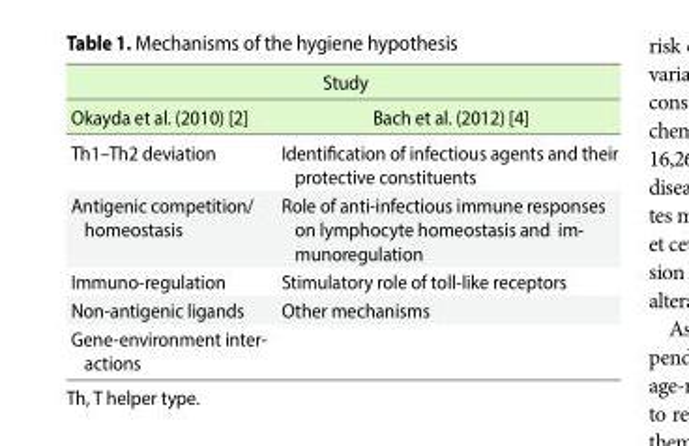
<table><thead><tr><td colspan="2">Study</td></tr><tr><td>Okayda et al. (2010) [2]</td><td>Bach et al. (2012) [4]</td></tr></thead><tbody><tr><td>Th1–Th2 deviation</td><td>Identification of infectious agents and their protective constituents</td></tr><tr><td>Antigenic competition/ homeostasis</td><td>Role of anti-infectious immune responses on lymphocyte homeostasis and im- munoregulation</td></tr><tr><td>Immuno-regulation</td><td>Stimulatory role of toll-like receptors</td></tr><tr><td>Non-antigenic ligands</td><td>Other mechanisms</td></tr><tr><td>Gene-environment inter- actions</td><td></td></tr></tbody></table>